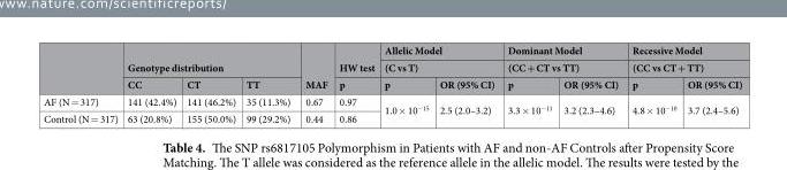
<table><thead><tr><td rowspan="3"></td><td rowspan="2" colspan="3">Genotype distribution</td><td rowspan="3">MAF</td><td rowspan="3">HW test p</td><td rowspan="2" colspan="2">Allelic Model (C vs T)</td><td rowspan="2" colspan="2">Dominant Model (CC + CT vs TT)</td><td rowspan="2" colspan="2">Recessive Model (CC vs CT + TT)</td></tr><tr></tr><tr><td>CC</td><td>CT</td><td>TT</td><td>p</td><td>OR (95% CI)</td><td>p</td><td>OR (95% CI)</td><td>p</td><td>OR (95% CI)</td></tr></thead><tbody><tr><td>AF (N = 317)</td><td>141 (42.4%)</td><td>141 (46.2%)</td><td>35 (11.3%)</td><td>0.67</td><td>0.97</td><td rowspan="2">1.0 × 10<sup>−15</sup></td><td rowspan="2">2.5 (2.0–3.2)</td><td rowspan="2">3.3 × 10<sup>−11</sup></td><td rowspan="2">3.2 (2.3–4.6)</td><td rowspan="2">4.8 × 10<sup>−10</sup></td><td rowspan="2">3.7 (2.4–5.6)</td></tr><tr><td>Control (N = 317)</td><td>63 (20.8%)</td><td>155 (50.0%)</td><td>99 (29.2%)</td><td>0.44</td><td>0.86</td></tr></tbody></table>